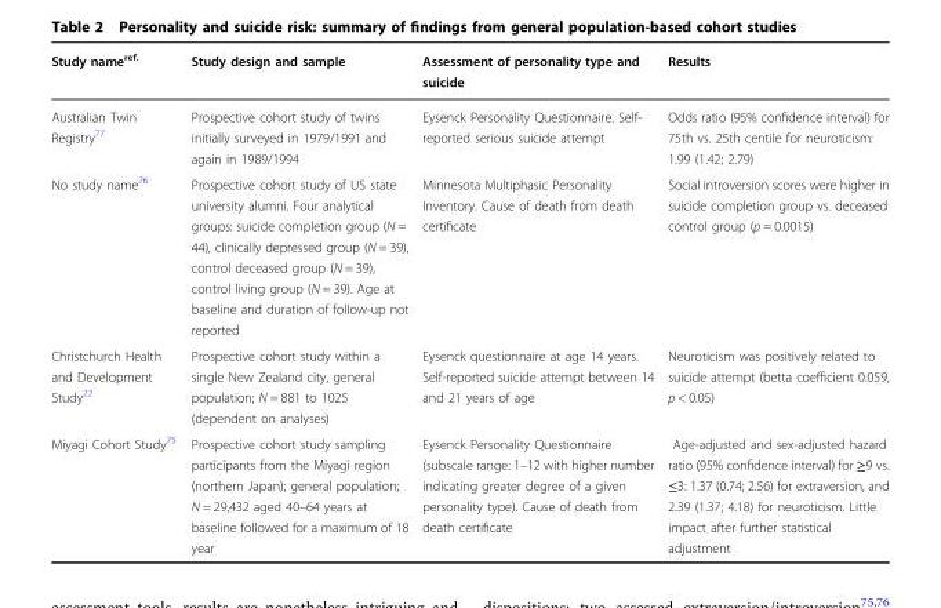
<table><thead><tr><td>Study name<sup>ref.</sup></td><td>Study design and sample</td><td>Assessment of personality type and suicide</td><td>Results</td></tr></thead><tbody><tr><td>Australian Twin Registry<sup>77</sup></td><td>Prospective cohort study of twins initially surveyed in 1979/1991 and again in 1989/1994</td><td>Eysenck Personality Questionnaire. Self- reported serious suicide attempt</td><td>Odds ratio (95% confidence interval) for 75th vs. 25th centile for neuroticism: 1.99 (1.42; 2.79)</td></tr><tr><td>No study name<sup>76</sup></td><td>Prospective cohort study of US state university alumni. Four analytical groups: suicide completion group (N = 44), clinically depressed group (N = 39), control deceased group (N = 39), control living group (N = 39). Age at baseline and duration of follow-up not reported</td><td>Minnesota Multiphasic Personality Inventory. Cause of death from death certificate</td><td>Social introversion scores were higher in suicide completion group vs. deceased control group (p = 0.0015)</td></tr><tr><td>Christchurch Health and Development Study<sup>22</sup></td><td>Prospective cohort study within a single New Zealand city, general population; N = 881 to 1025 (dependent on analyses)</td><td>Eysenck questionnaire at age 14 years. Self-reported suicide attempt between 14 and 21 years of age</td><td>Neuroticism was positively related to suicide attempt (betta coefficient 0.059, p &lt; 0.05)</td></tr><tr><td>Miyagi Cohort Study<sup>75</sup></td><td>Prospective cohort study sampling participants from the Miyagi region (northern Japan); general population; N = 29,432 aged 40–64 years at baseline followed for a maximum of 18 year</td><td>Eysenck Personality Questionnaire (subscale range: 1–12 with higher number indicating greater degree of a given personality type). Cause of death from death certificate</td><td>Age-adjusted and sex-adjusted hazard ratio (95% confidence interval) for ≥9 vs. ≤3: 1.37 (0.74; 2.56) for extraversion, and 2.39 (1.37; 4.18) for neuroticism. Little impact after further statistical adjustment</td></tr></tbody></table>